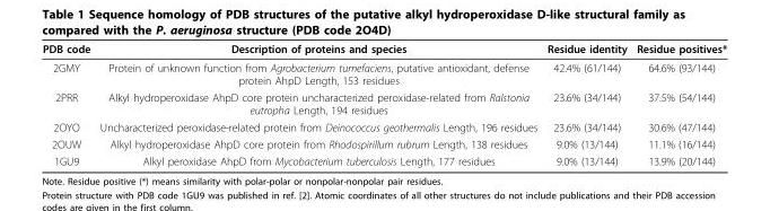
<table><thead><tr><td>PDB code</td><td>Description of proteins and species</td><td>Residue identity</td><td>Residue positives*</td></tr></thead><tbody><tr><td>2GMY</td><td>Protein of unknown function from Agrobacterium tumefaciens, putative antioxidant, defense protein AhpD Length, 153 residues</td><td>42.4% (61/144)</td><td>64.6% (93/144)</td></tr><tr><td>2PRR</td><td>Alkyl hydroperoxidase AhpD core protein uncharacterized peroxidase-related from Ralstonia eutropha Length, 194 residues</td><td>23.6% (34/144)</td><td>37.5% (54/144)</td></tr><tr><td>2OYO</td><td>Uncharacterized peroxidase-related protein from Deinococcus geothermalis Length, 196 residues</td><td>23.6% (34/144)</td><td>30.6% (47/144)</td></tr><tr><td>2OUW</td><td>Alkyl hydroperoxidase AhpD core protein from Rhodospirillum rubrum Length, 138 residues</td><td>9.0% (13/144)</td><td>11.1% (16/144)</td></tr><tr><td>1GU9</td><td>Alkyl peroxidase AhpD from Mycobacterium tuberculosis Length, 177 residues</td><td>9.0% (13/144)</td><td>13.9% (20/144)</td></tr></tbody></table>